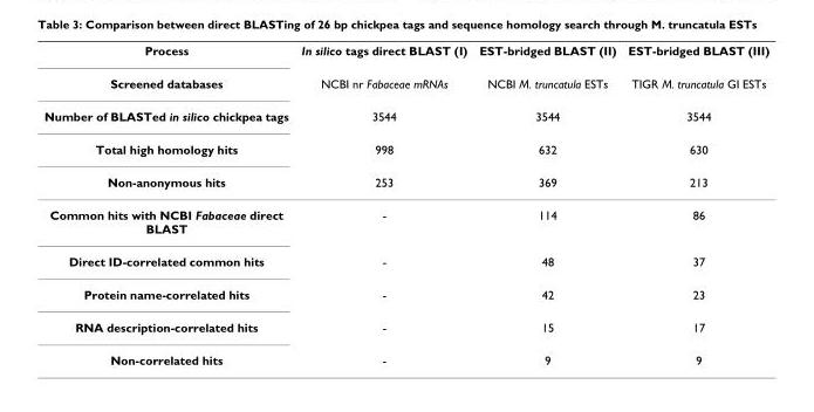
<table><thead><tr><td rowspan="5">Process Screened databases Number of BLASTed in silico chickpea tags Total high homology hits Non-anonymous hits</td><td rowspan="5">In silico tags direct BLAST (I) NCBI nr Fabaceae mRNAs 3544 998 253</td><td rowspan="5">EST-bridged BLAST (II) NCBI M. truncatula ESTs 3544 632 369</td><td rowspan="5">EST-bridged BLAST (III) TIGR M. truncatula GI ESTs 3544 630 213</td></tr><tr></tr><tr></tr><tr></tr><tr></tr></thead><tbody><tr><td>Common hits with NCBI Fabaceae direct BLAST</td><td>-</td><td>114</td><td>86</td></tr><tr><td>Direct ID-correlated common hits</td><td>-</td><td>48</td><td>37</td></tr><tr><td>Protein name-correlated hits</td><td>-</td><td>42</td><td>23</td></tr><tr><td>RNA description-correlated hits</td><td>-</td><td>15</td><td>17</td></tr><tr><td>Non-correlated hits</td><td>-</td><td>9</td><td>9</td></tr></tbody></table>